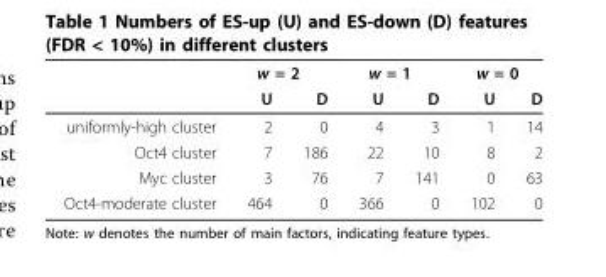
<table><thead><tr><td rowspan="2"></td><td colspan="2">w = 2</td><td colspan="2">w = 1</td><td colspan="2">w = 0</td></tr><tr><td>U</td><td>D</td><td>U</td><td>D</td><td>U</td><td>D</td></tr></thead><tbody><tr><td>uniformly-high cluster</td><td>2</td><td>0</td><td>4</td><td>3</td><td>1</td><td>14</td></tr><tr><td>Oct4 cluster</td><td>7</td><td>186</td><td>22</td><td>10</td><td>8</td><td>2</td></tr><tr><td>Myc cluster</td><td>3</td><td>76</td><td>7</td><td>141</td><td>0</td><td>63</td></tr><tr><td>Oct4-moderate cluster</td><td>464</td><td>0</td><td>366</td><td>0</td><td>102</td><td>0</td></tr></tbody></table>